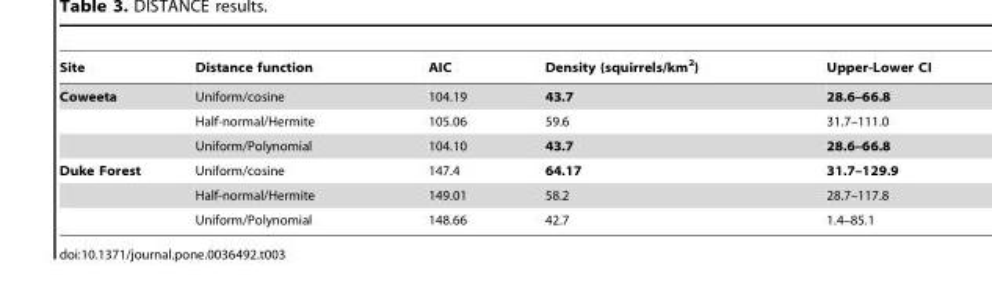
<table><thead><tr><td>Site</td><td>Distance function</td><td>AIC</td><td>Density (squirrels/km<sup>2</sup>)</td><td>Upper-Lower CI</td></tr></thead><tbody><tr><td rowspan="3">Coweeta</td><td>Uniform/cosine</td><td>104.19</td><td>43.7</td><td>28.6–66.8</td></tr><tr><td>Half-normal/Hermite</td><td>105.06</td><td>59.6</td><td>31.7–111.0</td></tr><tr><td>Uniform/Polynomial</td><td>104.10</td><td>43.7</td><td>28.6–66.8</td></tr><tr><td rowspan="3">Duke Forest</td><td>Uniform/cosine</td><td>147.4</td><td>64.17</td><td>31.7–129.9</td></tr><tr><td>Half-normal/Hermite</td><td>149.01</td><td>58.2</td><td>28.7–117.8</td></tr><tr><td>Uniform/Polynomial</td><td>148.66</td><td>42.7</td><td>1.4–85.1</td></tr></tbody></table>